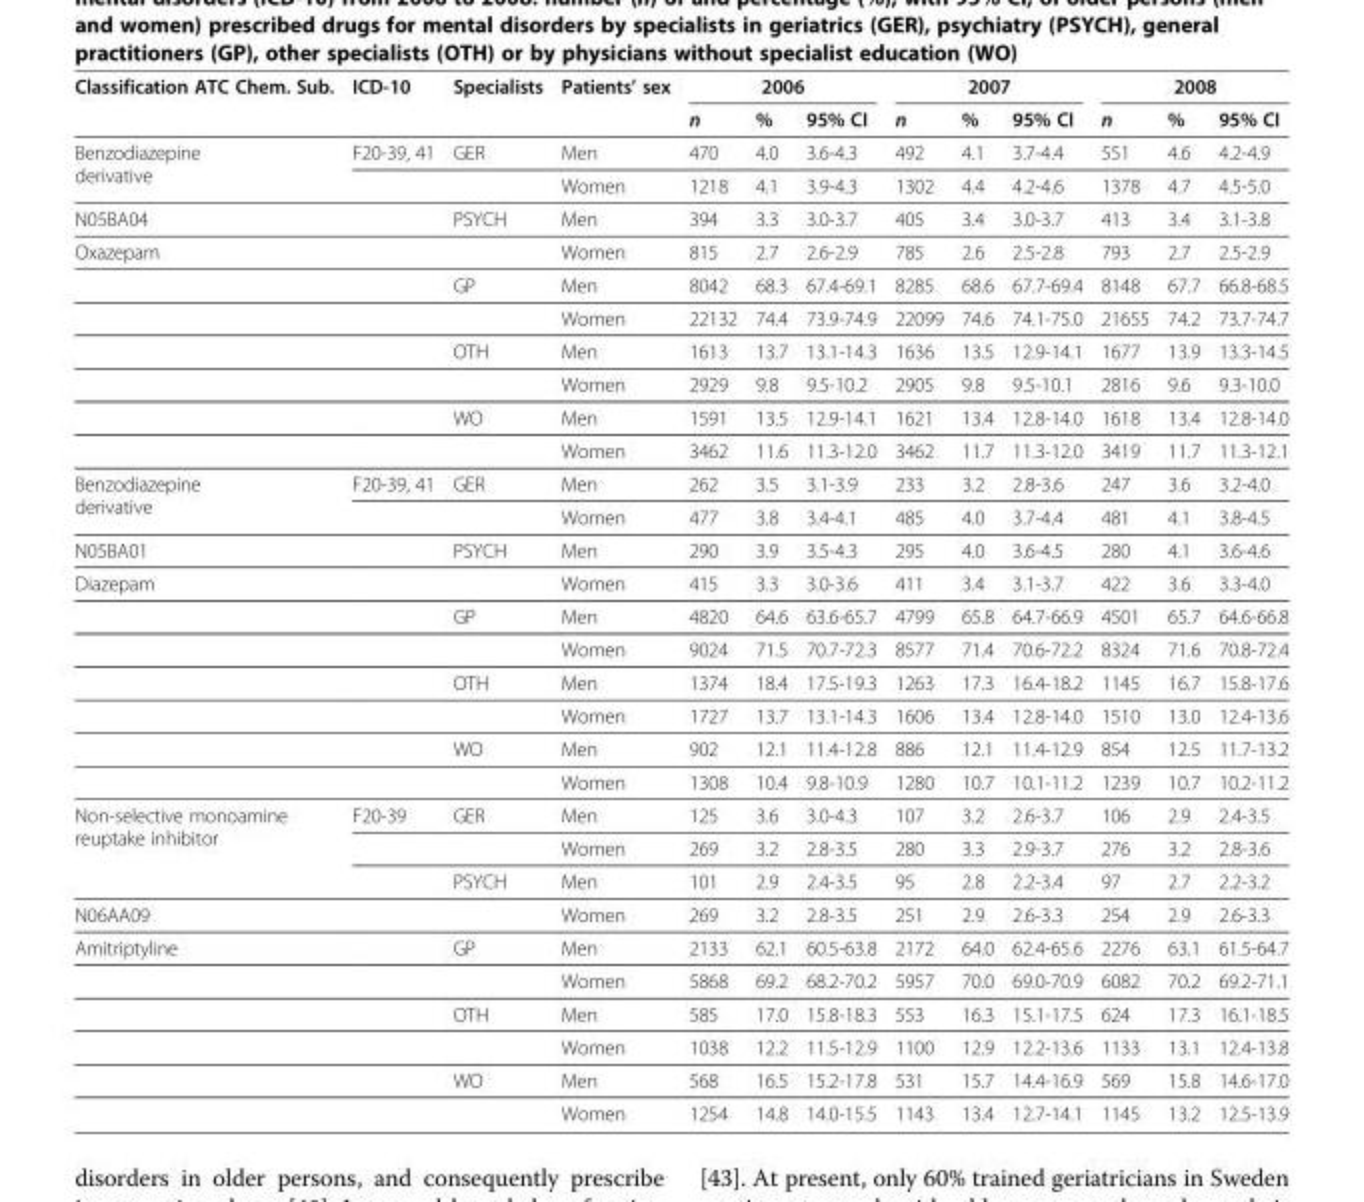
<table><thead><tr><td rowspan="2">Classification ATC Chem. Sub.</td><td rowspan="2">ICD-10</td><td rowspan="2">Specialists</td><td rowspan="2">Patients’ sex</td><td colspan="3">2006</td><td colspan="3">2007</td><td colspan="3">2008</td></tr><tr><td>n</td><td>%</td><td>95% CI</td><td>n</td><td>%</td><td>95% CI</td><td>n</td><td>%</td><td>95% CI</td></tr></thead><tbody><tr><td rowspan="2">Benzodiazepine derivative</td><td>F20-39, 41</td><td>GER</td><td>Men</td><td>470</td><td>4.0</td><td>3.6-4.3</td><td>492</td><td>4.1</td><td>3.7-4.4</td><td>551</td><td>4.6</td><td>4.2-4.9</td></tr><tr><td></td><td></td><td>Women</td><td>1218</td><td>4.1</td><td>3.9-4.3</td><td>1302</td><td>4.4</td><td>4.2-4.6</td><td>1378</td><td>4.7</td><td>4.5-5.0</td></tr><tr><td>N05BA04</td><td></td><td>PSYCH</td><td>Men</td><td>394</td><td>3.3</td><td>3.0-3.7</td><td>405</td><td>3.4</td><td>3.0-3.7</td><td>413</td><td>3.4</td><td>3.1-3.8</td></tr><tr><td rowspan="7">Oxazepam</td><td></td><td></td><td>Women</td><td>815</td><td>2.7</td><td>2.6-2.9</td><td>785</td><td>2.6</td><td>2.5-2.8</td><td>793</td><td>2.7</td><td>2.5-2.9</td></tr><tr><td></td><td>GP</td><td>Men</td><td>8042</td><td>68.3</td><td>67.4-69.1</td><td>8285</td><td>68.6</td><td>67.7-69.4</td><td>8148</td><td>67.7</td><td>66.8-68.5</td></tr><tr><td></td><td></td><td>Women</td><td>22132</td><td>74.4</td><td>73.9-74.9</td><td>22099</td><td>74.6</td><td>74.1-75.0</td><td>21655</td><td>74.2</td><td>73.7-74.7</td></tr><tr><td></td><td>OTH</td><td>Men</td><td>1613</td><td>13.7</td><td>13.1-14.3</td><td>1636</td><td>13.5</td><td>12.9-14.1</td><td>1677</td><td>13.9</td><td>13.3-14.5</td></tr><tr><td></td><td></td><td>Women</td><td>2929</td><td>9.8</td><td>9.5-10.2</td><td>2905</td><td>9.8</td><td>9.5-10.1</td><td>2816</td><td>9.6</td><td>9.3-10.0</td></tr><tr><td></td><td>WO</td><td>Men</td><td>1591</td><td>13.5</td><td>12.9-14.1</td><td>1621</td><td>13.4</td><td>12.8-14.0</td><td>1618</td><td>13.4</td><td>12.8-14.0</td></tr><tr><td></td><td></td><td>Women</td><td>3462</td><td>11.6</td><td>11.3-12.0</td><td>3462</td><td>11.7</td><td>11.3-12.0</td><td>3419</td><td>11.7</td><td>11.3-12.1</td></tr><tr><td rowspan="2">Benzodiazepine derivative</td><td>F20-39, 41</td><td>GER</td><td>Men</td><td>262</td><td>3.5</td><td>3.1-3.9</td><td>233</td><td>3.2</td><td>2.8-3.6</td><td>247</td><td>3.6</td><td>3.2-4.0</td></tr><tr><td></td><td></td><td>Women</td><td>477</td><td>3.8</td><td>3.4-4.1</td><td>485</td><td>4.0</td><td>3.7-4.4</td><td>481</td><td>4.1</td><td>3.8-4.5</td></tr><tr><td>N05BA01</td><td></td><td>PSYCH</td><td>Men</td><td>290</td><td>3.9</td><td>3.5-4.3</td><td>295</td><td>4.0</td><td>3.6-4.5</td><td>280</td><td>4.1</td><td>3.6-4.6</td></tr><tr><td rowspan="7">Diazepam</td><td></td><td></td><td>Women</td><td>415</td><td>3.3</td><td>3.0-3.6</td><td>411</td><td>3.4</td><td>3.1-3.7</td><td>422</td><td>3.6</td><td>3.3-4.0</td></tr><tr><td></td><td>GP</td><td>Men</td><td>4820</td><td>64.6</td><td>63.6-65.7</td><td>4799</td><td>65.8</td><td>64.7-66.9</td><td>4501</td><td>65.7</td><td>64.6-66.8</td></tr><tr><td></td><td></td><td>Women</td><td>9024</td><td>71.5</td><td>70.7-72.3</td><td>8577</td><td>71.4</td><td>70.6-72.2</td><td>8324</td><td>71.6</td><td>70.8-72.4</td></tr><tr><td></td><td>OTH</td><td>Men</td><td>1374</td><td>18.4</td><td>17.5-19.3</td><td>1263</td><td>17.3</td><td>16.4-18.2</td><td>1145</td><td>16.7</td><td>15.8-17.6</td></tr><tr><td></td><td></td><td>Women</td><td>1727</td><td>13.7</td><td>13.1-14.3</td><td>1606</td><td>13.4</td><td>12.8-14.0</td><td>1510</td><td>13.0</td><td>12.4-13.6</td></tr><tr><td></td><td>WO</td><td>Men</td><td>902</td><td>12.1</td><td>11.4-12.8</td><td>886</td><td>12.1</td><td>11.4-12.9</td><td>854</td><td>12.5</td><td>11.7-13.2</td></tr><tr><td></td><td></td><td>Women</td><td>1308</td><td>10.4</td><td>9.8-10.9</td><td>1280</td><td>10.7</td><td>10.1-11.2</td><td>1239</td><td>10.7</td><td>10.2-11.2</td></tr><tr><td rowspan="3">Non-selective monoamine reuptake inhibitor</td><td>F20-39</td><td>GER</td><td>Men</td><td>125</td><td>3.6</td><td>3.0-4.3</td><td>107</td><td>3.2</td><td>2.6-3.7</td><td>106</td><td>2.9</td><td>2.4-3.5</td></tr><tr><td></td><td></td><td>Women</td><td>269</td><td>3.2</td><td>2.8-3.5</td><td>280</td><td>3.3</td><td>2.9-3.7</td><td>276</td><td>3.2</td><td>2.8-3.6</td></tr><tr><td></td><td>PSYCH</td><td>Men</td><td>101</td><td>2.9</td><td>2.4-3.5</td><td>95</td><td>2.8</td><td>2.2-3.4</td><td>97</td><td>2.7</td><td>2.2-3.2</td></tr><tr><td>N06AA09</td><td></td><td></td><td>Women</td><td>269</td><td>3.2</td><td>2.8-3.5</td><td>251</td><td>2.9</td><td>2.6-3.3</td><td>254</td><td>2.9</td><td>2.6-3.3</td></tr><tr><td rowspan="6">Amitriptyline</td><td></td><td>GP</td><td>Men</td><td>2133</td><td>62.1</td><td>60.5-63.8</td><td>2172</td><td>64.0</td><td>62.4-65.6</td><td>2276</td><td>63.1</td><td>61.5-64.7</td></tr><tr><td></td><td></td><td>Women</td><td>5868</td><td>69.2</td><td>68.2-70.2</td><td>5957</td><td>70.0</td><td>69.0-70.9</td><td>6082</td><td>70.2</td><td>69.2-71.1</td></tr><tr><td></td><td>OTH</td><td>Men</td><td>585</td><td>17.0</td><td>15.8-18.3</td><td>553</td><td>16.3</td><td>15.1-17.5</td><td>624</td><td>17.3</td><td>16.1-18.5</td></tr><tr><td></td><td></td><td>Women</td><td>1038</td><td>12.2</td><td>11.5-12.9</td><td>1100</td><td>12.9</td><td>12.2-13.6</td><td>1133</td><td>13.1</td><td>12.4-13.8</td></tr><tr><td></td><td>WO</td><td>Men</td><td>568</td><td>16.5</td><td>15.2-17.8</td><td>531</td><td>15.7</td><td>14.4-16.9</td><td>569</td><td>15.8</td><td>14.6-17.0</td></tr><tr><td></td><td></td><td>Women</td><td>1254</td><td>14.8</td><td>14.0-15.5</td><td>1143</td><td>13.4</td><td>12.7-14.1</td><td>1145</td><td>13.2</td><td>12.5-13.9</td></tr></tbody></table>